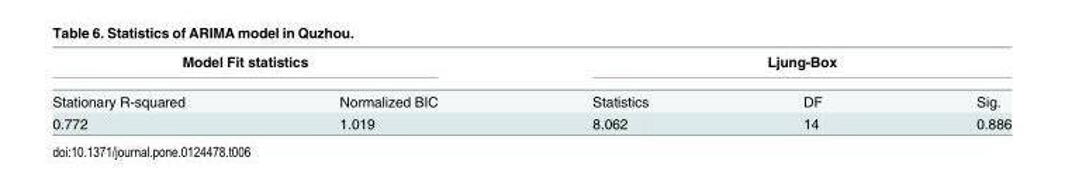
<table><thead><tr><td colspan="2">Model Fit statistics</td><td colspan="3">Ljung-Box</td></tr><tr><td>Stationary R-squared</td><td>Normalized BIC</td><td>Statistics</td><td>DF</td><td>Sig.</td></tr></thead><tbody><tr><td>0.772</td><td>1.019</td><td>8.062</td><td>14</td><td>0.886</td></tr></tbody></table>